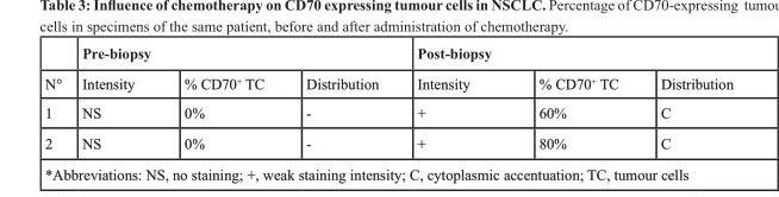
<table><thead><tr><td rowspan="2">N°</td><td colspan="3">Pre-biopsy</td><td colspan="3">Post-biopsy</td></tr><tr><td>Intensity</td><td>% CD70<sup>+</sup> TC</td><td>Distribution</td><td>Intensity</td><td>% CD70<sup>+</sup> TC</td><td>Distribution</td></tr></thead><tbody><tr><td>1</td><td>NS</td><td>0%</td><td>-</td><td>+</td><td>60%</td><td>C</td></tr><tr><td>2</td><td>NS</td><td>0%</td><td>-</td><td>+</td><td>80%</td><td>C</td></tr></tbody></table>